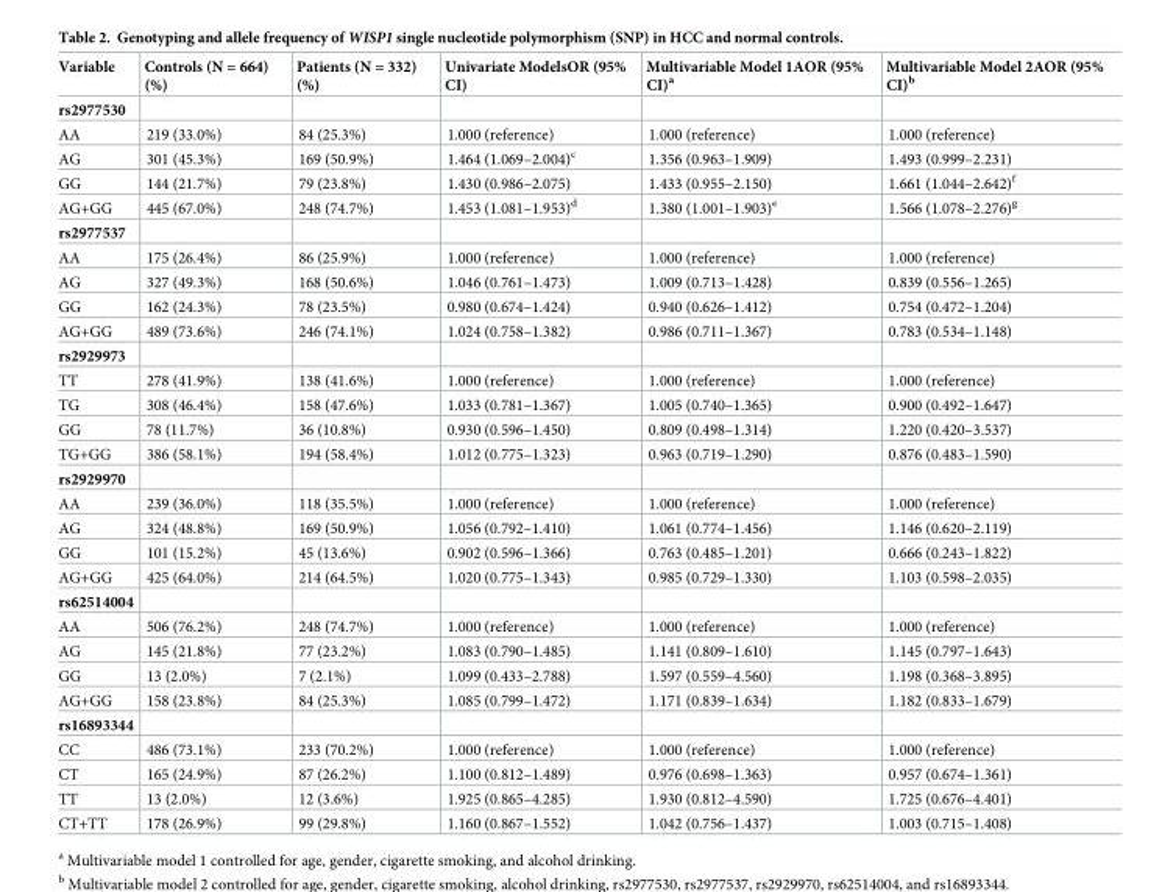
<table><thead><tr><td>Variable</td><td>Controls (N = 664) (%)</td><td>Patients (N = 332) (%)</td><td>Univariate ModelsOR (95% CI)</td><td>Multivariable Model 1AOR (95% CI)<sup>a</sup></td><td>Multivariable Model 2AOR (95% CI)<sup>b</sup></td></tr></thead><tbody><tr><td colspan="6">rs2977530</td></tr><tr><td>AA</td><td>219 (33.0%)</td><td>84 (25.3%)</td><td>1.000 (reference)</td><td>1.000 (reference)</td><td>1.000 (reference)</td></tr><tr><td>AG</td><td>301 (45.3%)</td><td>169 (50.9%)</td><td>1.464 (1.069–2.004)<sup>c</sup></td><td>1.356 (0.963–1.909)</td><td>1.493 (0.999–2.231)</td></tr><tr><td>GG</td><td>144 (21.7%)</td><td>79 (23.8%)</td><td>1.430 (0.986–2.075)</td><td>1.433 (0.955–2.150)</td><td>1.661 (1.044–2.642)<sup>f</sup></td></tr><tr><td>AG+GG</td><td>445 (67.0%)</td><td>248 (74.7%)</td><td>1.453 (1.081–1.953)<sup>d</sup></td><td>1.380 (1.001–1.903)<sup>e</sup></td><td>1.566 (1.078–2.276)<sup>g</sup></td></tr><tr><td colspan="6">rs2977537</td></tr><tr><td>AA</td><td>175 (26.4%)</td><td>86 (25.9%)</td><td>1.000 (reference)</td><td>1.000 (reference)</td><td>1.000 (reference)</td></tr><tr><td>AG</td><td>327 (49.3%)</td><td>168 (50.6%)</td><td>1.046 (0.761–1.473)</td><td>1.009 (0.713–1.428)</td><td>0.839 (0.556–1.265)</td></tr><tr><td>GG</td><td>162 (24.3%)</td><td>78 (23.5%)</td><td>0.980 (0.674–1.424)</td><td>0.940 (0.626–1.412)</td><td>0.754 (0.472–1.204)</td></tr><tr><td>AG+GG</td><td>489 (73.6%)</td><td>246 (74.1%)</td><td>1.024 (0.758–1.382)</td><td>0.986 (0.711–1.367)</td><td>0.783 (0.534–1.148)</td></tr><tr><td colspan="6">rs2929973</td></tr><tr><td>TT</td><td>278 (41.9%)</td><td>138 (41.6%)</td><td>1.000 (reference)</td><td>1.000 (reference)</td><td>1.000 (reference)</td></tr><tr><td>TG</td><td>308 (46.4%)</td><td>158 (47.6%)</td><td>1.033 (0.781–1.367)</td><td>1.005 (0.740–1.365)</td><td>0.900 (0.492–1.647)</td></tr><tr><td>GG</td><td>78 (11.7%)</td><td>36 (10.8%)</td><td>0.930 (0.596–1.450)</td><td>0.809 (0.498–1.314)</td><td>1.220 (0.420–3.537)</td></tr><tr><td>TG+GG</td><td>386 (58.1%)</td><td>194 (58.4%)</td><td>1.012 (0.775–1.323)</td><td>0.963 (0.719–1.290)</td><td>0.876 (0.483–1.590)</td></tr><tr><td colspan="6">rs2929970</td></tr><tr><td>AA</td><td>239 (36.0%)</td><td>118 (35.5%)</td><td>1.000 (reference)</td><td>1.000 (reference)</td><td>1.000 (reference)</td></tr><tr><td>AG</td><td>324 (48.8%)</td><td>169 (50.9%)</td><td>1.056 (0.792–1.410)</td><td>1.061 (0.774–1.456)</td><td>1.146 (0.620–2.119)</td></tr><tr><td>GG</td><td>101 (15.2%)</td><td>45 (13.6%)</td><td>0.902 (0.596–1.366)</td><td>0.763 (0.485–1.201)</td><td>0.666 (0.243–1.822)</td></tr><tr><td>AG+GG</td><td>425 (64.0%)</td><td>214 (64.5%)</td><td>1.020 (0.775–1.343)</td><td>0.985 (0.729–1.330)</td><td>1.103 (0.598–2.035)</td></tr><tr><td colspan="6">rs62514004</td></tr><tr><td>AA</td><td>506 (76.2%)</td><td>248 (74.7%)</td><td>1.000 (reference)</td><td>1.000 (reference)</td><td>1.000 (reference)</td></tr><tr><td>AG</td><td>145 (21.8%)</td><td>77 (23.2%)</td><td>1.083 (0.790–1.485)</td><td>1.141 (0.809–1.610)</td><td>1.145 (0.797–1.643)</td></tr><tr><td>GG</td><td>13 (2.0%)</td><td>7 (2.1%)</td><td>1.099 (0.433–2.788)</td><td>1.597 (0.559–4.560)</td><td>1.198 (0.368–3.895)</td></tr><tr><td>AG+GG</td><td>158 (23.8%)</td><td>84 (25.3%)</td><td>1.085 (0.799–1.472)</td><td>1.171 (0.839–1.634)</td><td>1.182 (0.833–1.679)</td></tr><tr><td colspan="6">rs16893344</td></tr><tr><td>CC</td><td>486 (73.1%)</td><td>233 (70.2%)</td><td>1.000 (reference)</td><td>1.000 (reference)</td><td>1.000 (reference)</td></tr><tr><td>CT</td><td>165 (24.9%)</td><td>87 (26.2%)</td><td>1.100 (0.812–1.489)</td><td>0.976 (0.698–1.363)</td><td>0.957 (0.674–1.361)</td></tr><tr><td>TT</td><td>13 (2.0%)</td><td>12 (3.6%)</td><td>1.925 (0.865–4.285)</td><td>1.930 (0.812–4.590)</td><td>1.725 (0.676–4.401)</td></tr><tr><td>CT+TT</td><td>178 (26.9%)</td><td>99 (29.8%)</td><td>1.160 (0.867–1.552)</td><td>1.042 (0.756–1.437)</td><td>1.003 (0.715–1.408)</td></tr></tbody></table>